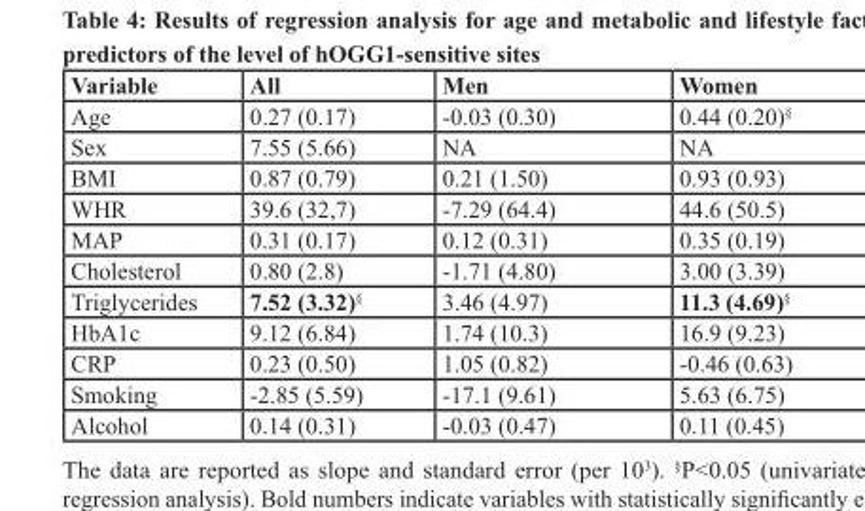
<table><thead><tr><td>Variable</td><td>All</td><td>Men</td><td>Women</td></tr></thead><tbody><tr><td>Age</td><td>0.27 (0.17)</td><td>-0.03 (0.30)</td><td>0.44 (0.20)<sup>§</sup></td></tr><tr><td>Sex</td><td>7.55 (5.66)</td><td>NA</td><td>NA</td></tr><tr><td>BMI</td><td>0.87 (0.79)</td><td>0.21 (1.50)</td><td>0.93 (0.93)</td></tr><tr><td>WHR</td><td>39.6 (32,7)</td><td>-7.29 (64.4)</td><td>44.6 (50.5)</td></tr><tr><td>MAP</td><td>0.31 (0.17)</td><td>0.12 (0.31)</td><td>0.35 (0.19)</td></tr><tr><td>Cholesterol</td><td>0.80 (2.8)</td><td>-1.71 (4.80)</td><td>3.00 (3.39)</td></tr><tr><td>Triglycerides</td><td>7.52 (3.32)<sup>§</sup></td><td>3.46 (4.97)</td><td>11.3 (4.69)<sup>§</sup></td></tr><tr><td>HbA1c</td><td>9.12 (6.84)</td><td>1.74 (10.3)</td><td>16.9 (9.23)</td></tr><tr><td>CRP</td><td>0.23 (0.50)</td><td>1.05 (0.82)</td><td>-0.46 (0.63)</td></tr><tr><td>Smoking</td><td>-2.85 (5.59)</td><td>-17.1 (9.61)</td><td>5.63 (6.75)</td></tr><tr><td>Alcohol</td><td>0.14 (0.31)</td><td>-0.03 (0.47)</td><td>0.11 (0.45)</td></tr></tbody></table>